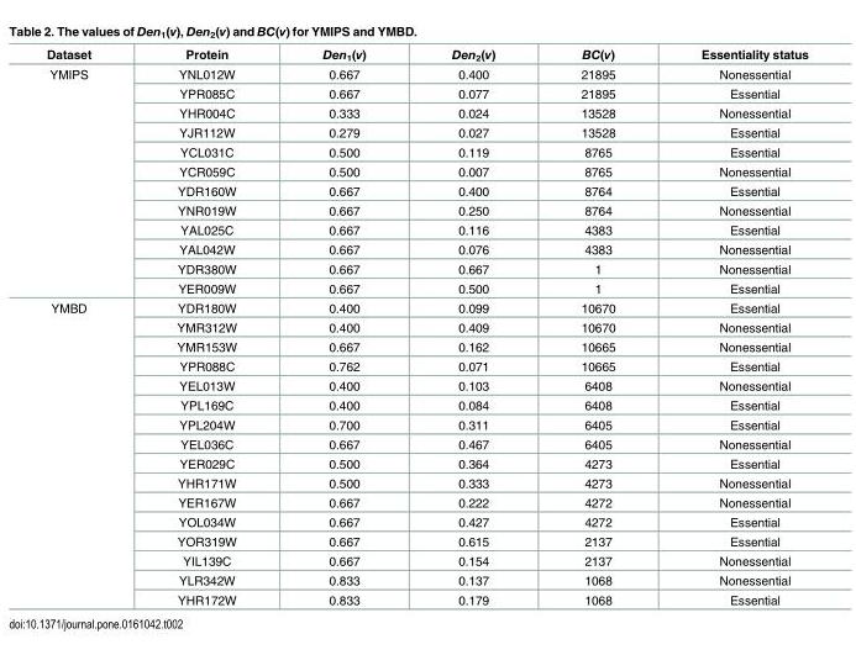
<table><thead><tr><td>Dataset</td><td>Protein</td><td>Den<sub>1</sub>(v)</td><td>Den<sub>2</sub>(v)</td><td>BC(v)</td><td>Essentiality status</td></tr></thead><tbody><tr><td rowspan="12">YMIPS</td><td>YNL012W</td><td>0.667</td><td>0.400</td><td>21895</td><td>Nonessential</td></tr><tr><td>YPR085C</td><td>0.667</td><td>0.077</td><td>21895</td><td>Essential</td></tr><tr><td>YHR004C</td><td>0.333</td><td>0.024</td><td>13528</td><td>Nonessential</td></tr><tr><td>YJR112W</td><td>0.279</td><td>0.027</td><td>13528</td><td>Essential</td></tr><tr><td>YCL031C</td><td>0.500</td><td>0.119</td><td>8765</td><td>Essential</td></tr><tr><td>YCR059C</td><td>0.500</td><td>0.007</td><td>8765</td><td>Nonessential</td></tr><tr><td>YDR160W</td><td>0.667</td><td>0.400</td><td>8764</td><td>Essential</td></tr><tr><td>YNR019W</td><td>0.667</td><td>0.250</td><td>8764</td><td>Nonessential</td></tr><tr><td>YAL025C</td><td>0.667</td><td>0.116</td><td>4383</td><td>Essential</td></tr><tr><td>YAL042W</td><td>0.667</td><td>0.076</td><td>4383</td><td>Nonessential</td></tr><tr><td>YDR380W</td><td>0.667</td><td>0.667</td><td>1</td><td>Nonessential</td></tr><tr><td>YER009W</td><td>0.667</td><td>0.500</td><td>1</td><td>Essential</td></tr><tr><td rowspan="16">YMBD</td><td>YDR180W</td><td>0.400</td><td>0.099</td><td>10670</td><td>Essential</td></tr><tr><td>YMR312W</td><td>0.400</td><td>0.409</td><td>10670</td><td>Nonessential</td></tr><tr><td>YMR153W</td><td>0.667</td><td>0.162</td><td>10665</td><td>Nonessential</td></tr><tr><td>YPR088C</td><td>0.762</td><td>0.071</td><td>10665</td><td>Essential</td></tr><tr><td>YEL013W</td><td>0.400</td><td>0.103</td><td>6408</td><td>Nonessential</td></tr><tr><td>YPL169C</td><td>0.400</td><td>0.084</td><td>6408</td><td>Essential</td></tr><tr><td>YPL204W</td><td>0.700</td><td>0.311</td><td>6405</td><td>Essential</td></tr><tr><td>YEL036C</td><td>0.667</td><td>0.467</td><td>6405</td><td>Nonessential</td></tr><tr><td>YER029C</td><td>0.500</td><td>0.364</td><td>4273</td><td>Essential</td></tr><tr><td>YHR171W</td><td>0.500</td><td>0.333</td><td>4273</td><td>Nonessential</td></tr><tr><td>YER167W</td><td>0.667</td><td>0.222</td><td>4272</td><td>Nonessential</td></tr><tr><td>YOL034W</td><td>0.667</td><td>0.427</td><td>4272</td><td>Essential</td></tr><tr><td>YOR319W</td><td>0.667</td><td>0.615</td><td>2137</td><td>Essential</td></tr><tr><td>YIL139C</td><td>0.667</td><td>0.154</td><td>2137</td><td>Nonessential</td></tr><tr><td>YLR342W</td><td>0.833</td><td>0.137</td><td>1068</td><td>Nonessential</td></tr><tr><td>YHR172W</td><td>0.833</td><td>0.179</td><td>1068</td><td>Essential</td></tr></tbody></table>